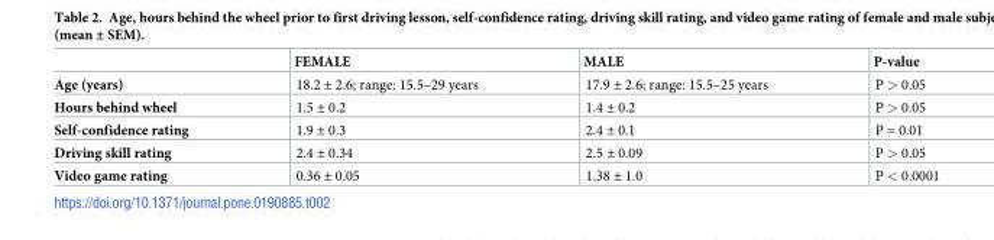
<table><thead><tr><td></td><td>FEMALE</td><td>MALE</td><td>P-value</td></tr></thead><tbody><tr><td>Age (years)</td><td>18.2 ± 2.6; range: 15.5–29 years</td><td>17.9 ± 2.6; range: 15.5–25 years</td><td>P &gt; 0.05</td></tr><tr><td>Hours behind wheel</td><td>1.5 ± 0.2</td><td>1.4 ± 0.2</td><td>P &gt; 0.05</td></tr><tr><td>Self-confidence rating</td><td>1.9 ± 0.3</td><td>2.4 ± 0.1</td><td>P = 0.01</td></tr><tr><td>Driving skill rating</td><td>2.4 ± 0.34</td><td>2.5 ± 0.09</td><td>P &gt; 0.05</td></tr><tr><td>Video game rating</td><td>0.36 ± 0.05</td><td>1.38 ± 1.0</td><td>P &lt; 0.0001</td></tr></tbody></table>